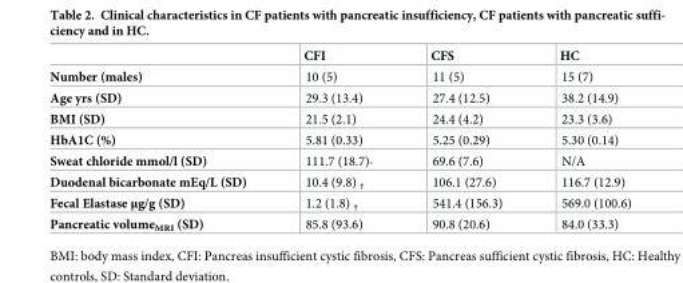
<table><thead><tr><td></td><td>CFI</td><td>CFS</td><td>HC</td></tr></thead><tbody><tr><td>Number (males)</td><td>10 (5)</td><td>11 (5)</td><td>15 (7)</td></tr><tr><td>Age yrs (SD)</td><td>29.3 (13.4)</td><td>27.4 (12.5)</td><td>38.2 (14.9)</td></tr><tr><td>BMI (SD)</td><td>21.5 (2.1)</td><td>24.4 (4.2)</td><td>23.3 (3.6)</td></tr><tr><td>HbA1C (%)</td><td>5.81 (0.33)</td><td>5.25 (0.29)</td><td>5.30 (0.14)</td></tr><tr><td>Sweat chloride mmol/l (SD)</td><td>111.7 (18.7)<sub>*</sub></td><td>69.6 (7.6)</td><td>N/A</td></tr><tr><td>Duodenal bicarbonate mEq/L (SD)</td><td>10.4 (9.8) <sub>†</sub></td><td>106.1 (27.6)</td><td>116.7 (12.9)</td></tr><tr><td>Fecal Elastase μg/g (SD)</td><td>1.2 (1.8) <sub>†</sub></td><td>541.4 (156.3)</td><td>569.0 (100.6)</td></tr><tr><td>Pancreatic volume<sub>MRI</sub> (SD)</td><td>85.8 (93.6)</td><td>90.8 (20.6)</td><td>84.0 (33.3)</td></tr></tbody></table>